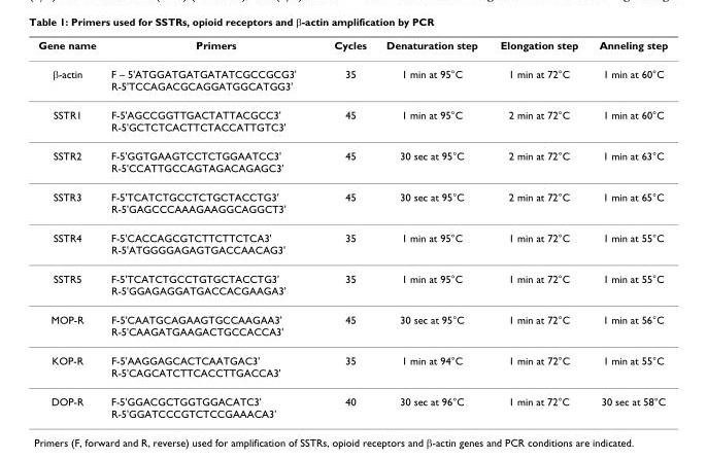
<table><thead><tr><td>Gene name</td><td>Primers</td><td>Cycles</td><td>Denaturation step</td><td>Elongation step</td><td>Anneling step</td></tr></thead><tbody><tr><td>β-actin</td><td>F – 5&#x27;ATGGATGATGATATCGCCGCG3&#x27; R-5&#x27;TCCAGACGCAGGATGGCATGG3&#x27;</td><td>35</td><td>1 min at 95°C</td><td>1 min at 72°C</td><td>1 min at 60°C</td></tr><tr><td>SSTR1</td><td>F-5&#x27;AGCCGGTTGACTATTACGCC3&#x27; R-5&#x27;GCTCTCACTTCTACCATTGTC3&#x27;</td><td>45</td><td>1 min at 95°C</td><td>2 min at 72°C</td><td>1 min at 60°C</td></tr><tr><td>SSTR2</td><td>F-5&#x27;GGTGAAGTCCTCTGGAATCC3&#x27; R-5&#x27;CCATTGCCAGTAGACAGAGC3&#x27;</td><td>45</td><td>30 sec at 95°C</td><td>2 min at 72°C</td><td>1 min at 63°C</td></tr><tr><td>SSTR3</td><td>F-5&#x27;TCATCTGCCTCTGCTACCTG3&#x27; R-5&#x27;GAGCCCAAAGAAGGCAGGCT3&#x27;</td><td>45</td><td>30 sec at 95°C</td><td>2 min at 72°C</td><td>1 min at 65°C</td></tr><tr><td>SSTR4</td><td>F-5&#x27;CACCAGCGTCTTCTTCTCA3&#x27; R-5&#x27;ATGGGGAGAGTGACCAACAG3&#x27;</td><td>35</td><td>1 min at 95°C</td><td>1 min at 72°C</td><td>1 min at 55°C</td></tr><tr><td>SSTR5</td><td>F-5&#x27;TCATCTGCCTGTGCTACCTG3&#x27; R-5&#x27;GGAGAGGATGACCACGAAGA3&#x27;</td><td>35</td><td>1 min at 95°C</td><td>1 min at 72°C</td><td>1 min at 55°C</td></tr><tr><td>MOP-R</td><td>F-5&#x27;CAATGCAGAAGTGCCAAGAA3&#x27; R-5&#x27;CAAGATGAAGACTGCCACCA3&#x27;</td><td>45</td><td>30 sec at 95°C</td><td>1 min at 72°C</td><td>1 min at 56°C</td></tr><tr><td>KOP-R</td><td>F-5&#x27;AAGGAGCACTCAATGAC3&#x27; R-5&#x27;CAGCATCTTCACCTTGACCA3&#x27;</td><td>35</td><td>1 min at 94°C</td><td>1 min at 72°C</td><td>1 min at 55°C</td></tr><tr><td>DOP-R</td><td>F-5&#x27;GGACGCTGGTGGACATC3&#x27; R-5&#x27;GGATCCCGTCTCCGAAACA3&#x27;</td><td>40</td><td>30 sec at 96°C</td><td>1 min at 72°C</td><td>30 sec at 58°C</td></tr></tbody></table>